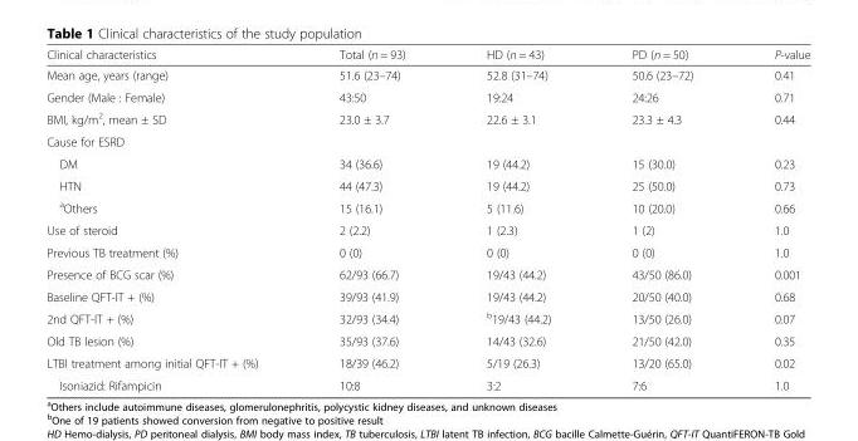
<table><thead><tr><td>Clinical characteristics</td><td>Total (n = 93)</td><td>HD (n = 43)</td><td>PD (n = 50)</td><td>P-value</td></tr></thead><tbody><tr><td>Mean age, years (range)</td><td>51.6 (23–74)</td><td>52.8 (31–74)</td><td>50.6 (23–72)</td><td>0.41</td></tr><tr><td>Gender (Male : Female)</td><td>43:50</td><td>19:24</td><td>24:26</td><td>0.71</td></tr><tr><td>BMI, kg/m<sup>2</sup>, mean ± SD</td><td>23.0 ± 3.7</td><td>22.6 ± 3.1</td><td>23.3 ± 4.3</td><td>0.44</td></tr><tr><td colspan="5">Cause for ESRD</td></tr><tr><td>DM</td><td>34 (36.6)</td><td>19 (44.2)</td><td>15 (30.0)</td><td>0.23</td></tr><tr><td>HTN</td><td>44 (47.3)</td><td>19 (44.2)</td><td>25 (50.0)</td><td>0.73</td></tr><tr><td><sup>a</sup>Others</td><td>15 (16.1)</td><td>5 (11.6)</td><td>10 (20.0)</td><td>0.66</td></tr><tr><td>Use of steroid</td><td>2 (2.2)</td><td>1 (2.3)</td><td>1 (2)</td><td>1.0</td></tr><tr><td>Previous TB treatment (%)</td><td>0 (0)</td><td>0 (0)</td><td>0 (0)</td><td>1.0</td></tr><tr><td>Presence of BCG scar (%)</td><td>62/93 (66.7)</td><td>19/43 (44.2)</td><td>43/50 (86.0)</td><td>0.001</td></tr><tr><td>Baseline QFT-IT + (%)</td><td>39/93 (41.9)</td><td>19/43 (44.2)</td><td>20/50 (40.0)</td><td>0.68</td></tr><tr><td>2nd QFT-IT + (%)</td><td>32/93 (34.4)</td><td><sup>b</sup>19/43 (44.2)</td><td>13/50 (26.0)</td><td>0.07</td></tr><tr><td>Old TB lesion (%)</td><td>35/93 (37.6)</td><td>14/43 (32.6)</td><td>21/50 (42.0)</td><td>0.35</td></tr><tr><td>LTBI treatment among initial QFT-IT + (%)</td><td>18/39 (46.2)</td><td>5/19 (26.3)</td><td>13/20 (65.0)</td><td>0.02</td></tr><tr><td>Isoniazid: Rifampicin</td><td>10:8</td><td>3:2</td><td>7:6</td><td>1.0</td></tr></tbody></table>